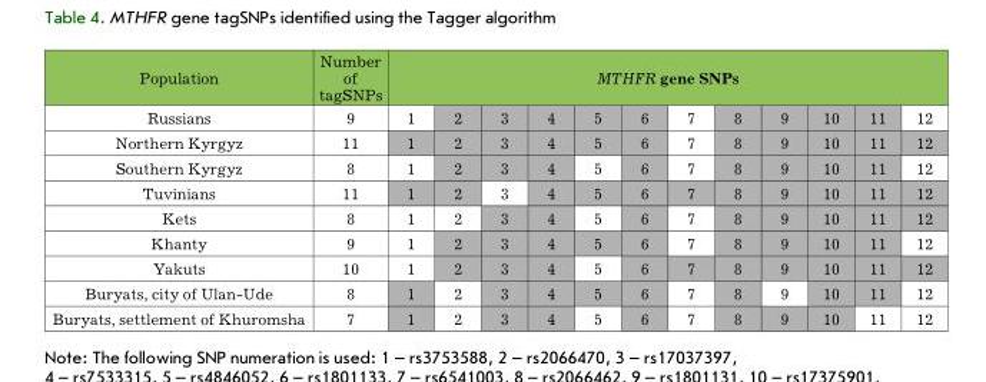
<table><thead><tr><td rowspan="2">Population russians</td><td rowspan="2">number of tagSnPs 9</td><td colspan="12">MTHFR gene SNPs</td></tr><tr><td>1</td><td>2</td><td>3</td><td>4</td><td>5</td><td>6</td><td>7</td><td>8</td><td>9</td><td>10</td><td>11</td><td>12</td></tr></thead><tbody><tr><td>northern Kyrgyz</td><td>11</td><td>1</td><td>2</td><td>3</td><td>4</td><td>5</td><td>6</td><td>7</td><td>8</td><td>9</td><td>10</td><td>11</td><td>12</td></tr><tr><td>Southern Kyrgyz</td><td>8</td><td>1</td><td>2</td><td>3</td><td>4</td><td>5</td><td>6</td><td>7</td><td>8</td><td>9</td><td>10</td><td>11</td><td>12</td></tr><tr><td>tuvinians</td><td>11</td><td>1</td><td>2</td><td>3</td><td>4</td><td>5</td><td>6</td><td>7</td><td>8</td><td>9</td><td>10</td><td>11</td><td>12</td></tr><tr><td>Kets</td><td>8</td><td>1</td><td>2</td><td>3</td><td>4</td><td>5</td><td>6</td><td>7</td><td>8</td><td>9</td><td>10</td><td>11</td><td>12</td></tr><tr><td>Khanty</td><td>9</td><td>1</td><td>2</td><td>3</td><td>4</td><td>5</td><td>6</td><td>7</td><td>8</td><td>9</td><td>10</td><td>11</td><td>12</td></tr><tr><td>Yakuts</td><td>10</td><td>1</td><td>2</td><td>3</td><td>4</td><td>5</td><td>6</td><td>7</td><td>8</td><td>9</td><td>10</td><td>11</td><td>12</td></tr><tr><td>Buryats, city of ulan-ude</td><td>8</td><td>1</td><td>2</td><td>3</td><td>4</td><td>5</td><td>6</td><td>7</td><td>8</td><td>9</td><td>10</td><td>11</td><td>12</td></tr><tr><td>Buryats, settlement of Khuromsha</td><td>7</td><td>1</td><td>2</td><td>3</td><td>4</td><td>5</td><td>6</td><td>7</td><td>8</td><td>9</td><td>10</td><td>11</td><td>12</td></tr></tbody></table>